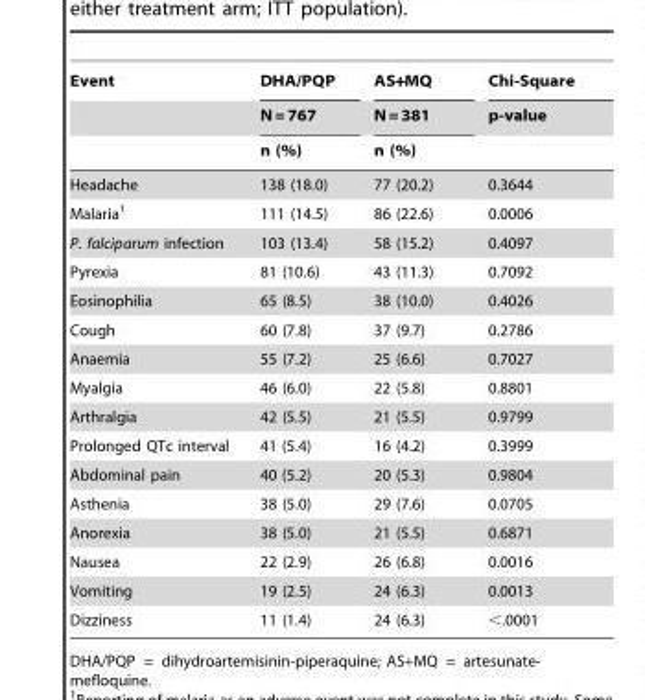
<table><thead><tr><td rowspan="3">Event</td><td rowspan="3">DHA/PQP N = 767 n (%)</td><td rowspan="3">AS+MQ N = 381 n (%)</td><td rowspan="3">Chi-Square p-value</td></tr><tr></tr><tr></tr></thead><tbody><tr><td>Headache</td><td>138 (18.0)</td><td>77 (20.2)</td><td>0.3644</td></tr><tr><td>Malaria<sup>1</sup></td><td>111 (14.5)</td><td>86 (22.6)</td><td>0.0006</td></tr><tr><td>P. falciparum infection</td><td>103 (13.4)</td><td>58 (15.2)</td><td>0.4097</td></tr><tr><td>Pyrexia</td><td>81 (10.6)</td><td>43 (11.3)</td><td>0.7092</td></tr><tr><td>Eosinophilia</td><td>65 (8.5)</td><td>38 (10.0)</td><td>0.4026</td></tr><tr><td>Cough</td><td>60 (7.8)</td><td>37 (9.7)</td><td>0.2786</td></tr><tr><td>Anaemia</td><td>55 (7.2)</td><td>25 (6.6)</td><td>0.7027</td></tr><tr><td>Myalgia</td><td>46 (6.0)</td><td>22 (5.8)</td><td>0.8801</td></tr><tr><td>Arthralgia</td><td>42 (5.5)</td><td>21 (5.5)</td><td>0.9799</td></tr><tr><td>Prolonged QTc interval</td><td>41 (5.4)</td><td>16 (4.2)</td><td>0.3999</td></tr><tr><td>Abdominal pain</td><td>40 (5.2)</td><td>20 (5.3)</td><td>0.9804</td></tr><tr><td>Asthenia</td><td>38 (5.0)</td><td>29 (7.6)</td><td>0.0705</td></tr><tr><td>Anorexia</td><td>38 (5.0)</td><td>21 (5.5)</td><td>0.6871</td></tr><tr><td>Nausea</td><td>22 (2.9)</td><td>26 (6.8)</td><td>0.0016</td></tr><tr><td>Vomiting</td><td>19 (2.5)</td><td>24 (6.3)</td><td>0.0013</td></tr><tr><td>Dizziness</td><td>11 (1.4)</td><td>24 (6.3)</td><td>&lt;.0001</td></tr></tbody></table>